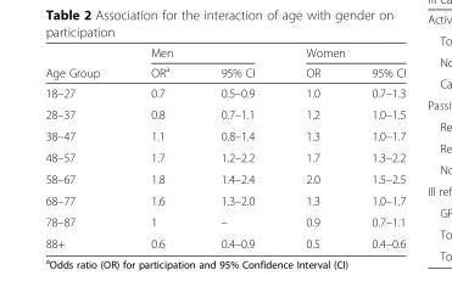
<table><thead><tr><td rowspan="2">Age Group</td><td colspan="2">Men</td><td colspan="2">Women</td></tr><tr><td>OR<sup>a</sup></td><td>95% CI</td><td>OR</td><td>95% CI</td></tr></thead><tbody><tr><td>18–27</td><td>0.7</td><td>0.5–0.9</td><td>1.0</td><td>0.7–1.3</td></tr><tr><td>28–37</td><td>0.8</td><td>0.7–1.1</td><td>1.2</td><td>1.0–1.5</td></tr><tr><td>38–47</td><td>1.1</td><td>0.8–1.4</td><td>1.3</td><td>1.0–1.7</td></tr><tr><td>48–57</td><td>1.7</td><td>1.2–2.2</td><td>1.7</td><td>1.3–2.2</td></tr><tr><td>58–67</td><td>1.8</td><td>1.4–2.4</td><td>2.0</td><td>1.5–2.5</td></tr><tr><td>68–77</td><td>1.6</td><td>1.3–2.0</td><td>1.3</td><td>1.0–1.7</td></tr><tr><td>78–87</td><td>1</td><td>–</td><td>0.9</td><td>0.7–1.1</td></tr><tr><td>88+</td><td>0.6</td><td>0.4–0.9</td><td>0.5</td><td>0.4–0.6</td></tr></tbody></table>